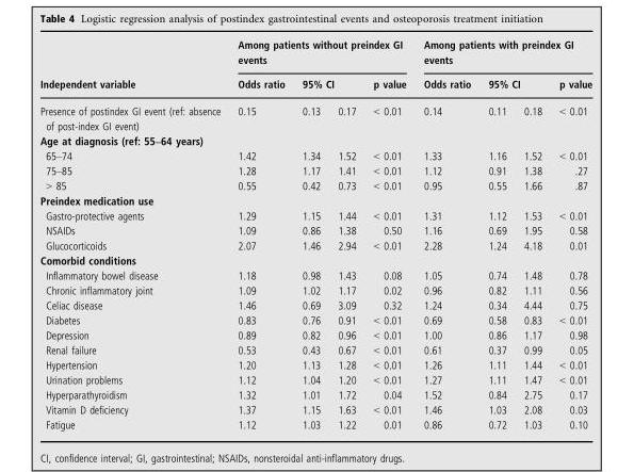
<table><thead><tr><td rowspan="3">Independent variable Presence of postindex GI event (ref: absence of post-index GI event)</td><td colspan="4">Among patients without preindex GI events</td><td colspan="4">Among patients with preindex GI events</td></tr><tr><td rowspan="2">Odds ratio 0.15</td><td colspan="2">95% CI</td><td rowspan="2">p value &lt; 0.01</td><td rowspan="2">Odds ratio 0.14</td><td colspan="2">95% CI</td><td rowspan="2">p value &lt; 0.01</td></tr><tr><td>0.13</td><td>0.17</td><td>0.11</td><td>0.18</td></tr></thead><tbody><tr><td colspan="9">Age at diagnosis (ref: 55–64 years)</td></tr><tr><td>65–74</td><td>1.42</td><td>1.34</td><td>1.52</td><td>&lt; 0.01</td><td>1.33</td><td>1.16</td><td>1.52</td><td>&lt; 0.01</td></tr><tr><td>75–85</td><td>1.28</td><td>1.17</td><td>1.41</td><td>&lt; 0.01</td><td>1.12</td><td>0.91</td><td>1.38</td><td>.27</td></tr><tr><td>&gt; 85</td><td>0.55</td><td>0.42</td><td>0.73</td><td>&lt; 0.01</td><td>0.95</td><td>0.55</td><td>1.66</td><td>.87</td></tr><tr><td colspan="9">Preindex medication use</td></tr><tr><td>Gastro-protective agents</td><td>1.29</td><td>1.15</td><td>1.44</td><td>&lt; 0.01</td><td>1.31</td><td>1.12</td><td>1.53</td><td>&lt; 0.01</td></tr><tr><td>NSAIDs</td><td>1.09</td><td>0.86</td><td>1.38</td><td>0.50</td><td>1.16</td><td>0.69</td><td>1.95</td><td>0.58</td></tr><tr><td>Glucocorticoids</td><td>2.07</td><td>1.46</td><td>2.94</td><td>&lt; 0.01</td><td>2.28</td><td>1.24</td><td>4.18</td><td>0.01</td></tr><tr><td colspan="9">Comorbid conditions</td></tr><tr><td>Inflammatory bowel disease</td><td>1.18</td><td>0.98</td><td>1.43</td><td>0.08</td><td>1.05</td><td>0.74</td><td>1.48</td><td>0.78</td></tr><tr><td>Chronic inflammatory joint</td><td>1.09</td><td>1.02</td><td>1.17</td><td>0.02</td><td>0.96</td><td>0.82</td><td>1.11</td><td>0.56</td></tr><tr><td>Celiac disease</td><td>1.46</td><td>0.69</td><td>3.09</td><td>0.32</td><td>1.24</td><td>0.34</td><td>4.44</td><td>0.75</td></tr><tr><td>Diabetes</td><td>0.83</td><td>0.76</td><td>0.91</td><td>&lt; 0.01</td><td>0.69</td><td>0.58</td><td>0.83</td><td>&lt; 0.01</td></tr><tr><td>Depression</td><td>0.89</td><td>0.82</td><td>0.96</td><td>&lt; 0.01</td><td>1.00</td><td>0.86</td><td>1.17</td><td>0.98</td></tr><tr><td>Renal failure</td><td>0.53</td><td>0.43</td><td>0.67</td><td>&lt; 0.01</td><td>0.61</td><td>0.37</td><td>0.99</td><td>0.05</td></tr><tr><td>Hypertension</td><td>1.20</td><td>1.13</td><td>1.28</td><td>&lt; 0.01</td><td>1.26</td><td>1.11</td><td>1.44</td><td>&lt; 0.01</td></tr><tr><td>Urination problems</td><td>1.12</td><td>1.04</td><td>1.20</td><td>&lt; 0.01</td><td>1.27</td><td>1.11</td><td>1.47</td><td>&lt; 0.01</td></tr><tr><td>Hyperparathyroidism</td><td>1.32</td><td>1.01</td><td>1.72</td><td>0.04</td><td>1.52</td><td>0.84</td><td>2.75</td><td>0.17</td></tr><tr><td>Vitamin D deficiency</td><td>1.37</td><td>1.15</td><td>1.63</td><td>&lt; 0.01</td><td>1.46</td><td>1.03</td><td>2.08</td><td>0.03</td></tr><tr><td>Fatigue</td><td>1.12</td><td>1.03</td><td>1.22</td><td>0.01</td><td>0.86</td><td>0.72</td><td>1.03</td><td>0.10</td></tr></tbody></table>